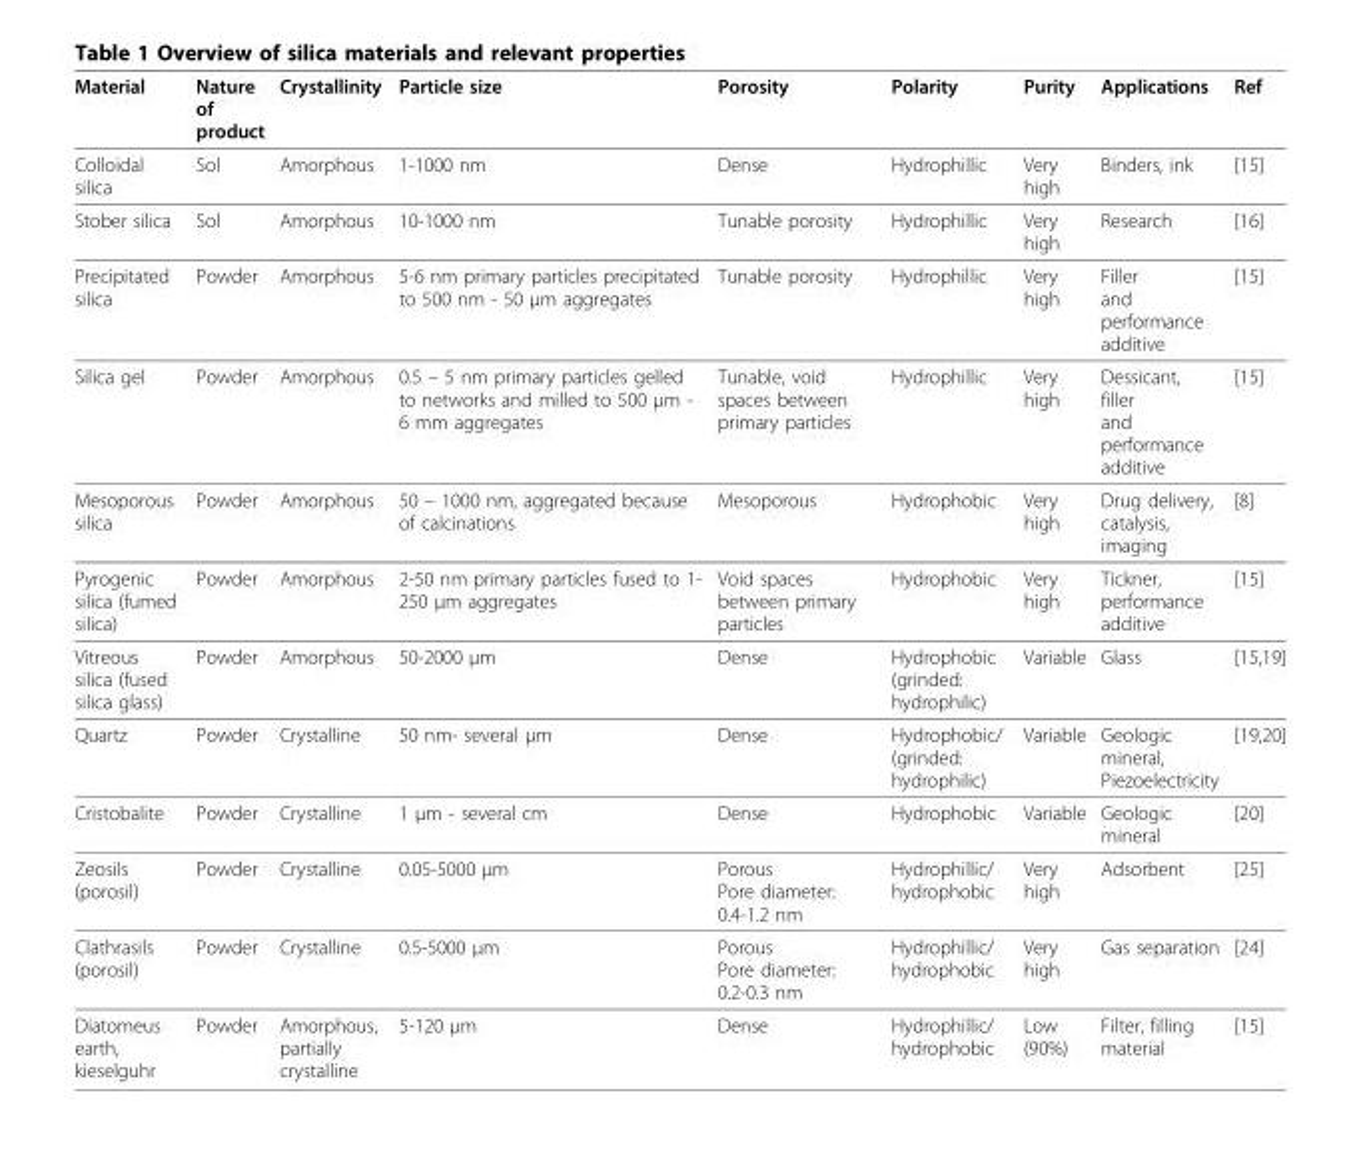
<table><thead><tr><td>Material</td><td>Nature of product</td><td>Crystallinity</td><td>Particle size</td><td>Porosity</td><td>Polarity</td><td>Purity</td><td>Applications</td><td>Ref</td></tr></thead><tbody><tr><td>Colloidal silica</td><td>Sol</td><td>Amorphous</td><td>1-1000 nm</td><td>Dense</td><td>Hydrophillic</td><td>Very high</td><td>Binders, ink</td><td>[15]</td></tr><tr><td>Stober silica</td><td>Sol</td><td>Amorphous</td><td>10-1000 nm</td><td>Tunable porosity</td><td>Hydrophillic</td><td>Very high</td><td>Research</td><td>[16]</td></tr><tr><td>Precipitated silica</td><td>Powder</td><td>Amorphous</td><td>5-6 nm primary particles precipitated to 500 nm - 50 μm aggregates</td><td>Tunable porosity</td><td>Hydrophillic</td><td>Very high</td><td>Filler and performance additive</td><td>[15]</td></tr><tr><td>Silica gel</td><td>Powder</td><td>Amorphous</td><td>0.5 – 5 nm primary particles gelled to networks and milled to 500 μm - 6 mm aggregates</td><td>Tunable, void spaces between primary particles</td><td>Hydrophillic</td><td>Very high</td><td>Dessicant, filler and performance additive</td><td>[15]</td></tr><tr><td>Mesoporous silica</td><td>Powder</td><td>Amorphous</td><td>50 – 1000 nm, aggregated because of calcinations</td><td>Mesoporous</td><td>Hydrophobic</td><td>Very high</td><td>Drug delivery, catalysis, imaging</td><td>[8]</td></tr><tr><td>Pyrogenic silica (fumed silica)</td><td>Powder</td><td>Amorphous</td><td>2-50 nm primary particles fused to 1- 250 μm aggregates</td><td>Void spaces between primary particles</td><td>Hydrophobic</td><td>Very high</td><td>Tickner, performance additive</td><td>[15]</td></tr><tr><td>Vitreous silica (fused silica glass)</td><td>Powder</td><td>Amorphous</td><td>50-2000 μm</td><td>Dense</td><td>Hydrophobic (grinded: hydrophilic)</td><td>Variable</td><td>Glass</td><td>[15,19]</td></tr><tr><td>Quartz</td><td>Powder</td><td>Crystalline</td><td>50 nm- several μm</td><td>Dense</td><td>Hydrophobic/ (grinded: hydrophilic)</td><td>Variable</td><td>Geologic mineral, Piezoelectricity</td><td>[19,20]</td></tr><tr><td>Cristobalite</td><td>Powder</td><td>Crystalline</td><td>1 μm - several cm</td><td>Dense</td><td>Hydrophobic</td><td>Variable</td><td>Geologic mineral</td><td>[20]</td></tr><tr><td>Zeosils (porosil)</td><td>Powder</td><td>Crystalline</td><td>0.05-5000 μm</td><td>Porous Pore diameter: 0.4-1.2 nm</td><td>Hydrophillic/ hydrophobic</td><td>Very high</td><td>Adsorbent</td><td>[25]</td></tr><tr><td>Clathrasils (porosil)</td><td>Powder</td><td>Crystalline</td><td>0.5-5000 μm</td><td>Porous Pore diameter: 0.2-0.3 nm</td><td>Hydrophillic/ hydrophobic</td><td>Very high</td><td>Gas separation</td><td>[24]</td></tr><tr><td>Diatomeus earth, kieselguhr</td><td>Powder</td><td>Amorphous, partially crystalline</td><td>5-120 μm</td><td>Dense</td><td>Hydrophillic/ hydrophobic</td><td>Low (90%)</td><td>Filter, filling material</td><td>[15]</td></tr></tbody></table>